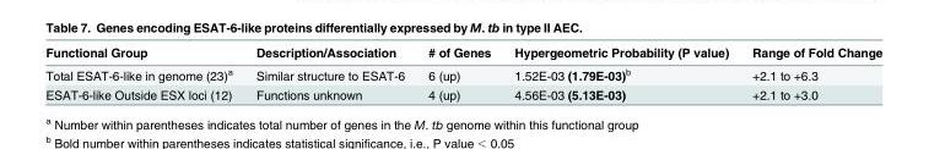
<table><thead><tr><td>Functional Group</td><td>Description/Association</td><td># of Genes</td><td>Hypergeometric Probability (P value)</td><td>Range of Fold Change</td></tr></thead><tbody><tr><td>Total ESAT-6-like in genome (23)<sup>a</sup></td><td>Similar structure to ESAT-6</td><td>6 (up)</td><td>1.52E-03 (1.79E-03)<sup>b</sup></td><td>+2.1 to +6.3</td></tr><tr><td>ESAT-6-like Outside ESX loci (12)</td><td>Functions unknown</td><td>4 (up)</td><td>4.56E-03 (5.13E-03)</td><td>+2.1 to +3.0</td></tr></tbody></table>